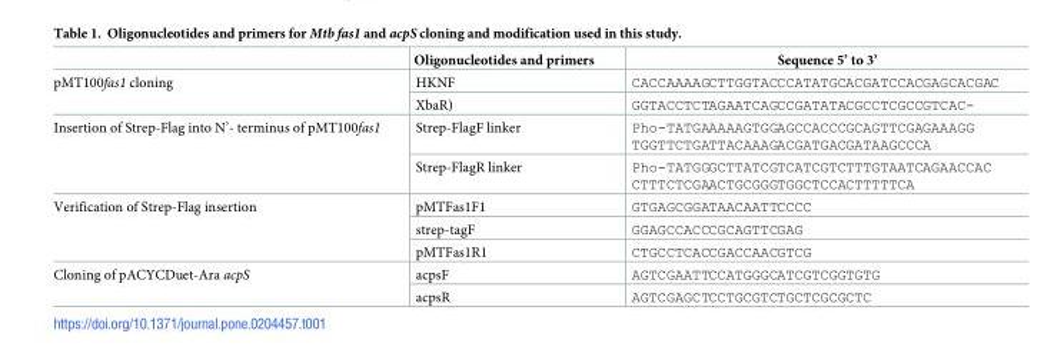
<table><thead><tr><td></td><td>Oligonucleotides and primers</td><td>Sequence 5’ to 3’</td></tr></thead><tbody><tr><td rowspan="2">pMT100fas1 cloning</td><td>HKNF</td><td>CACCAAAAGCTTGGTACCCATATGCACGATCCACGAGCACGAC</td></tr><tr><td>XbaR)</td><td>GGTACCTCTAGAATCAGCCGATATACGCCTCGCCGTCAC-</td></tr><tr><td rowspan="2">Insertion of Strep-Flag into N’- terminus of pMT100fas1</td><td>Strep-FlagF linker</td><td>Pho-TATGAAAAAGTGGAGCCACCCGCAGTTCGAGAAAGG TGGTTCTGATTACAAAGACGATGACGATAAGCCCA</td></tr><tr><td>Strep-FlagR linker</td><td>Pho-TATGGGCTTATCGTCATCGTCTTTGTAATCAGAACCAC CTTTCTCGAACTGCGGGTGGCTCCACTTTTTCA</td></tr><tr><td rowspan="3">Verification of Strep-Flag insertion</td><td>pMTFas1F1</td><td>GTGAGCGGATAACAATTCCCC</td></tr><tr><td>strep-tagF</td><td>GGAGCCACCCGCAGTTCGAG</td></tr><tr><td>pMTFas1R1</td><td>CTGCCTCACCGACCAACGTCG</td></tr><tr><td rowspan="2">Cloning of pACYCDuet-Ara acpS</td><td>acpsF</td><td>AGTCGAATTCCATGGGCATCGTCGGTGTG</td></tr><tr><td>acpsR</td><td>AGTCGAGCTCCTGCGTCTGCTCGCGCTC</td></tr></tbody></table>